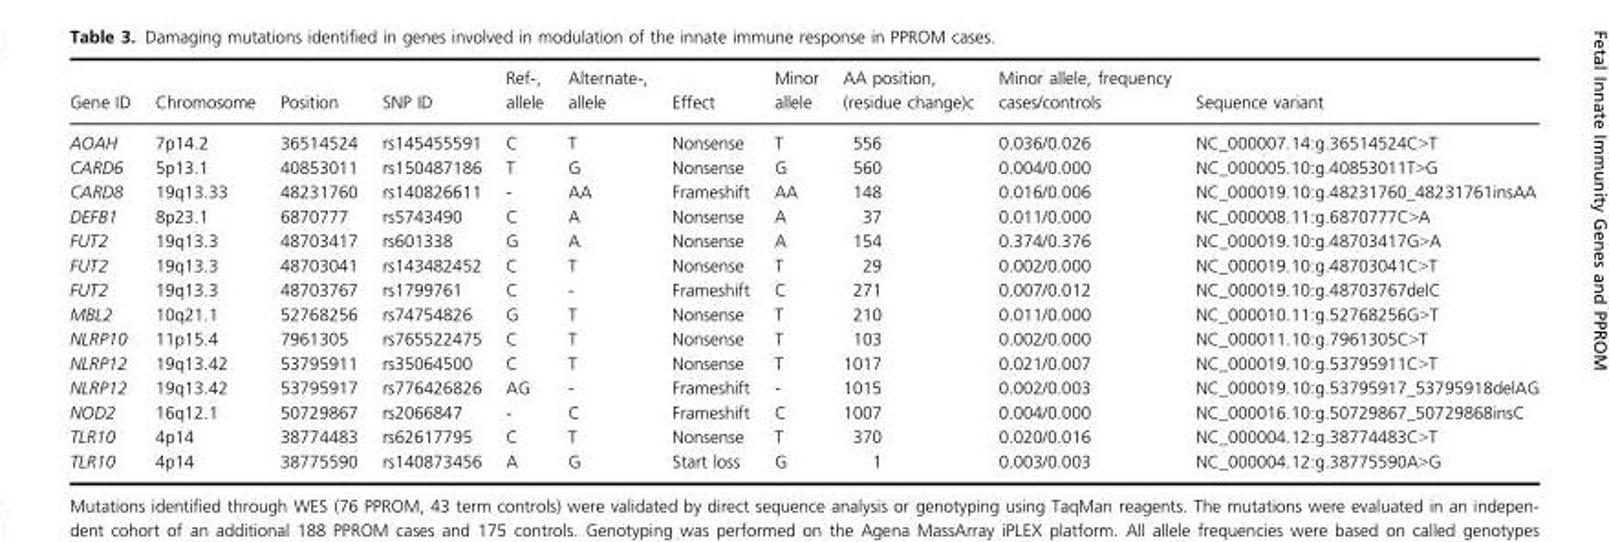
<table><thead><tr><td>Gene ID</td><td>Chromosome</td><td>Position</td><td>SNP ID</td><td>Ref-, allele</td><td>Alternate-, allele</td><td>Effect</td><td>Minor allele</td><td>AA position, (residue change)c</td><td>Minor allele, frequency cases/controls</td><td>Sequence variant</td></tr></thead><tbody><tr><td>AOAH</td><td>7p14.2</td><td>36514524</td><td>rs145455591</td><td>C</td><td>T</td><td>Nonsense</td><td>T</td><td>556</td><td>0.036/0.026</td><td>NC_000007.14:g.36514524C&gt;T</td></tr><tr><td>CARD6</td><td>5p13.1</td><td>40853011</td><td>rs150487186</td><td>T</td><td>G</td><td>Nonsense</td><td>G</td><td>560</td><td>0.004/0.000</td><td>NC_000005.10:g.40853011T&gt;G</td></tr><tr><td>CARD8</td><td>19q13.33</td><td>48231760</td><td>rs140826611</td><td>-</td><td>AA</td><td>Frameshift</td><td>AA</td><td>148</td><td>0.016/0.006</td><td>NC_000019.10:g.48231760_48231761insAA</td></tr><tr><td>DEFB1</td><td>8p23.1</td><td>6870777</td><td>rs5743490</td><td>C</td><td>A</td><td>Nonsense</td><td>A</td><td>37</td><td>0.011/0.000</td><td>NC_000008.11:g.6870777C&gt;A</td></tr><tr><td>FUT2</td><td>19q13.3</td><td>48703417</td><td>rs601338</td><td>G</td><td>A</td><td>Nonsense</td><td>A</td><td>154</td><td>0.374/0.376</td><td>NC_000019.10:g.48703417G&gt;A</td></tr><tr><td>FUT2</td><td>19q13.3</td><td>48703041</td><td>rs143482452</td><td>C</td><td>T</td><td>Nonsense</td><td>T</td><td>29</td><td>0.002/0.000</td><td>NC_000019.10:g.48703041C&gt;T</td></tr><tr><td>FUT2</td><td>19q13.3</td><td>48703767</td><td>rs1799761</td><td>C</td><td>-</td><td>Frameshift</td><td>C</td><td>271</td><td>0.007/0.012</td><td>NC_000019.10:g.48703767delC</td></tr><tr><td>MBL2</td><td>10q21.1</td><td>52768256</td><td>rs74754826</td><td>G</td><td>T</td><td>Nonsense</td><td>T</td><td>210</td><td>0.011/0.000</td><td>NC_000010.11:g.52768256G&gt;T</td></tr><tr><td>NLRP10</td><td>11p15.4</td><td>7961305</td><td>rs765522475</td><td>C</td><td>T</td><td>Nonsense</td><td>T</td><td>103</td><td>0.002/0.000</td><td>NC_000011.10:g.7961305C&gt;T</td></tr><tr><td>NLRP12</td><td>19q13.42</td><td>53795911</td><td>rs35064500</td><td>C</td><td>T</td><td>Nonsense</td><td>T</td><td>1017</td><td>0.021/0.007</td><td>NC_000019.10:g.53795911C&gt;T</td></tr><tr><td>NLRP12</td><td>19q13.42</td><td>53795917</td><td>rs776426826</td><td>AG</td><td>-</td><td>Frameshift</td><td>-</td><td>1015</td><td>0.002/0.003</td><td>NC_000019.10:g.53795917_53795918delAG</td></tr><tr><td>NOD2</td><td>16q12.1</td><td>50729867</td><td>rs2066847</td><td>-</td><td>C</td><td>Frameshift</td><td>C</td><td>1007</td><td>0.004/0.000</td><td>NC_000016.10:g.50729867_50729868insC</td></tr><tr><td>TLR10</td><td>4p14</td><td>38774483</td><td>rs62617795</td><td>C</td><td>T</td><td>Nonsense</td><td>T</td><td>370</td><td>0.020/0.016</td><td>NC_000004.12:g.38774483C&gt;T</td></tr><tr><td>TLR10</td><td>4p14</td><td>38775590</td><td>rs140873456</td><td>A</td><td>G</td><td>Start loss</td><td>G</td><td>1</td><td>0.003/0.003</td><td>NC_000004.12:g.38775590A&gt;G</td></tr></tbody></table>